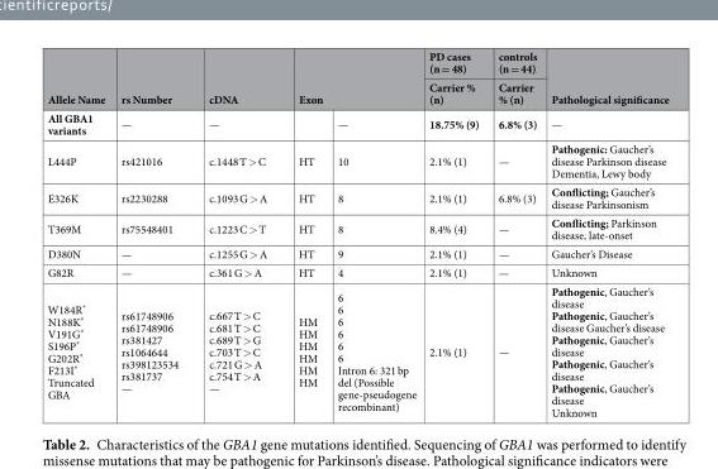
<table><thead><tr><td rowspan="3">Allele Name All GBA1 variants</td><td rowspan="3">rs Number —</td><td rowspan="3">cDNA —</td><td rowspan="2" colspan="2">Exon</td><td rowspan="3">PD cases (n = 48) Carrier % (n) 18.75% (9)</td><td rowspan="3">controls (n = 44) Carrier % (n) 6.8% (3)</td><td rowspan="3">Pathological significance —</td></tr><tr></tr><tr><td></td><td>—</td></tr></thead><tbody><tr><td>L444P</td><td>rs421016</td><td>c.1448 T &gt; C</td><td>HT</td><td>10</td><td>2.1% (1)</td><td>—</td><td>Pathogenic: Gaucher’s disease Parkinson disease Dementia, Lewy body</td></tr><tr><td>E326K</td><td>rs2230288</td><td>c.1093 G &gt; A</td><td>HT</td><td>8</td><td>2.1% (1)</td><td>6.8% (3)</td><td>Conflicting; Gaucher’s disease Parkinsonism</td></tr><tr><td>T369M</td><td>rs75548401</td><td>c.1223 C &gt; T</td><td>HT</td><td>8</td><td>8.4% (4)</td><td>—</td><td>Conflicting; Parkinson disease, late-onset</td></tr><tr><td>D380N</td><td>—</td><td>c.1255 G &gt; A</td><td>HT</td><td>9</td><td>2.1% (1)</td><td>—</td><td>Gaucher’s Disease</td></tr><tr><td>G82R</td><td>—</td><td>c.361 G &gt; A</td><td>HT</td><td>4</td><td>2.1% (1)</td><td>—</td><td>Unknown</td></tr><tr><td>W184R* N188K* V191G* S196P* G202R* F213I* Truncated GBA</td><td>rs61748906 rs61748906 rs381427 rs1064644 rs398123534 rs381737 —</td><td>c.667 T &gt; C c.681 T &gt; C c.689 T &gt; G c.703 T &gt; C c.721 G &gt; A c.754 T &gt; A —</td><td>HM HM HM HM HM HM</td><td>6 6 6 6 6 6 Intron 6: 321 bp del (Possible gene-pseudogene recombinant)</td><td>2.1% (1)</td><td>—</td><td>Pathogenic, Gaucher’s disease Pathogenic, Gaucher’s disease Gaucher’s disease Pathogenic, Gaucher’s disease Pathogenic, Gaucher’s disease Pathogenic, Gaucher’s disease Unknown</td></tr></tbody></table>